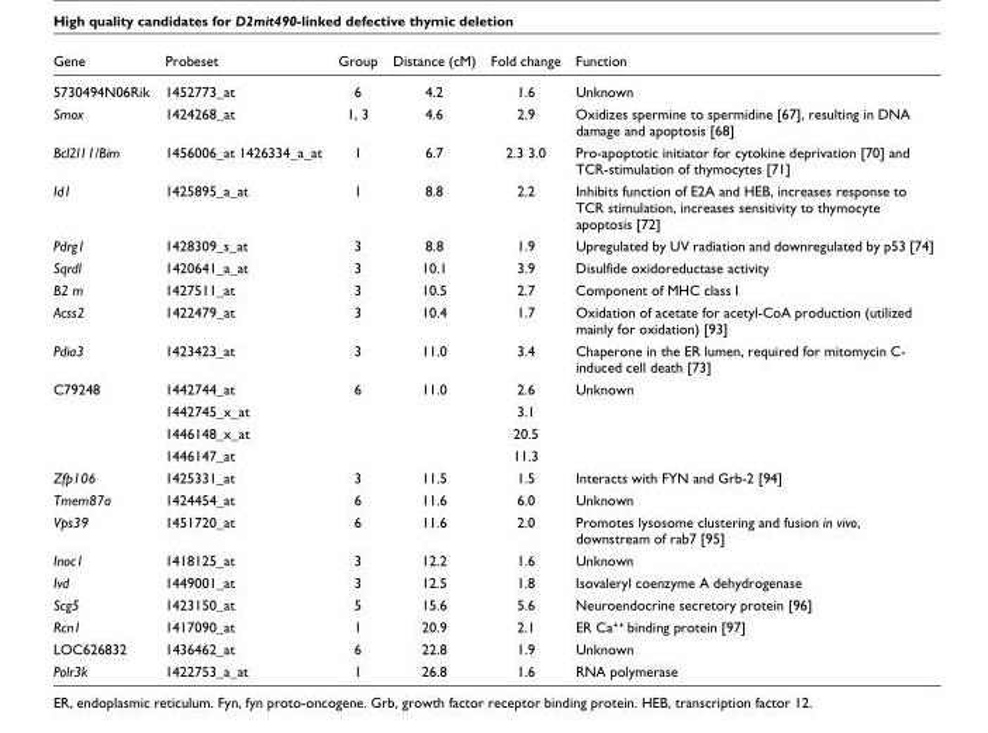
<table><thead><tr><td>Gene</td><td>Probeset</td><td>Group</td><td>Distance (cM)</td><td>Fold change</td><td>Function</td></tr></thead><tbody><tr><td>5730494N06Rik</td><td>1452773_at</td><td>6</td><td>4.2</td><td>1.6</td><td>Unknown</td></tr><tr><td>Smox</td><td>1424268_at</td><td>1, 3</td><td>4.6</td><td>2.9</td><td>Oxidizes spermine to spermidine [67], resulting in DNA damage and apoptosis [68]</td></tr><tr><td>Bcl2l11/Bim</td><td>1456006_at 1426334_a_at</td><td>1</td><td>6.7</td><td>2.3 3.0</td><td>Pro-apoptotic initiator for cytokine deprivation [70] and TCR-stimulation of thymocytes [71]</td></tr><tr><td>Id1</td><td>1425895_a_at</td><td>1</td><td>8.8</td><td>2.2</td><td>Inhibits function of E2A and HEB, increases response to TCR stimulation, increases sensitivity to thymocyte apoptosis [72]</td></tr><tr><td>Pdrg1</td><td>1428309_s_at</td><td>3</td><td>8.8</td><td>1.9</td><td>Upregulated by UV radiation and downregulated by p53 [74]</td></tr><tr><td>Sqrdl</td><td>1420641_a_at</td><td>3</td><td>10.1</td><td>3.9</td><td>Disulfide oxidoreductase activity</td></tr><tr><td>B2 m</td><td>1427511_at</td><td>3</td><td>10.5</td><td>2.7</td><td>Component of MHC class I</td></tr><tr><td>Acss2</td><td>1422479_at</td><td>3</td><td>10.4</td><td>1.7</td><td>Oxidation of acetate for acetyl-CoA production (utilized mainly for oxidation) [93]</td></tr><tr><td>Pdia3</td><td>1423423_at</td><td>3</td><td>11.0</td><td>3.4</td><td>Chaperone in the ER lumen, required for mitomycin C- induced cell death [73]</td></tr><tr><td rowspan="4">C79248</td><td>1442744_at</td><td>6</td><td>11.0</td><td>2.6</td><td>Unknown</td></tr><tr><td>1442745_x_at</td><td></td><td></td><td>3.1</td><td></td></tr><tr><td>1446148_x_at</td><td></td><td></td><td>20.5</td><td></td></tr><tr><td>1446147_at</td><td></td><td></td><td>11.3</td><td></td></tr><tr><td>Zfp106</td><td>1425331_at</td><td>3</td><td>11.5</td><td>1.5</td><td>Interacts with FYN and Grb-2 [94]</td></tr><tr><td>Tmem87a</td><td>1424454_at</td><td>6</td><td>11.6</td><td>6.0</td><td>Unknown</td></tr><tr><td>Vps39</td><td>1451720_at</td><td>6</td><td>11.6</td><td>2.0</td><td>Promotes lysosome clustering and fusion in vivo, downstream of rab7 [95]</td></tr><tr><td>Inoc1</td><td>1418125_at</td><td>3</td><td>12.2</td><td>1.6</td><td>Unknown</td></tr><tr><td>Ivd</td><td>1449001_at</td><td>3</td><td>12.5</td><td>1.8</td><td>Isovaleryl coenzyme A dehydrogenase</td></tr><tr><td>Scg5</td><td>1423150_at</td><td>5</td><td>15.6</td><td>5.6</td><td>Neuroendocrine secretory protein [96]</td></tr><tr><td>Rcn1</td><td>1417090_at</td><td>1</td><td>20.9</td><td>2.1</td><td>ER Ca++ binding protein [97]</td></tr><tr><td>LOC626832</td><td>1436462_at</td><td>6</td><td>22.8</td><td>1.9</td><td>Unknown</td></tr><tr><td>Polr3k</td><td>1422753_a_at</td><td>1</td><td>26.8</td><td>1.6</td><td>RNA polymerase</td></tr></tbody></table>